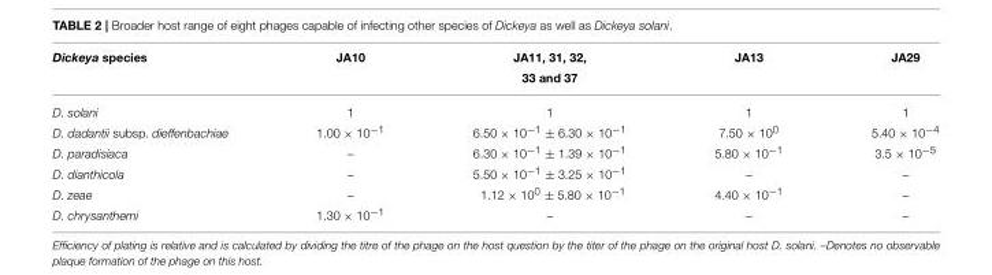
<table><thead><tr><td rowspan="2">Dickeya species</td><td rowspan="2">JA10</td><td rowspan="2">JA11, 31, 32, 33 and 37</td><td rowspan="2">JA13</td><td rowspan="2">JA29</td></tr><tr></tr></thead><tbody><tr><td>D. solani</td><td>1</td><td>1</td><td>1</td><td>1</td></tr><tr><td>D. dadantii subsp. dieffenbachiae</td><td>1.00 × 10<sup>−1</sup></td><td>6.50 × 10<sup>−1</sup> ± 6.30 × 10<sup>−1</sup></td><td>7.50 × 10<sup>0</sup></td><td>5.40 × 10<sup>−4</sup></td></tr><tr><td>D. paradisiaca</td><td>–</td><td>6.30 × 10<sup>−1</sup> ± 1.39 × 10<sup>−1</sup></td><td>5.80 × 10<sup>−1</sup></td><td>3.5 × 10<sup>−5</sup></td></tr><tr><td>D. dianthicola</td><td>–</td><td>5.50 × 10<sup>−1</sup> ± 3.25 × 10<sup>−1</sup></td><td>–</td><td>–</td></tr><tr><td>D. zeae</td><td>–</td><td>1.12 × 10<sup>0</sup> ± 5.80 × 10<sup>−1</sup></td><td>4.40 × 10<sup>−1</sup></td><td>–</td></tr><tr><td>D. chrysanthemi</td><td>1.30 × 10<sup>−1</sup></td><td>–</td><td>–</td><td>–</td></tr></tbody></table>